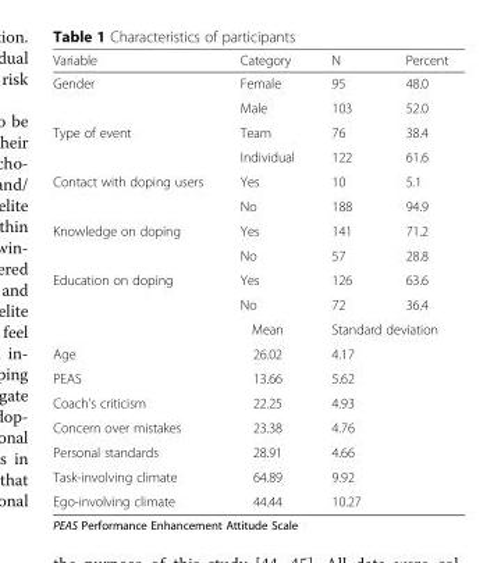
<table><thead><tr><td>Variable</td><td>Category</td><td>N</td><td>Percent</td></tr></thead><tbody><tr><td rowspan="2">Gender</td><td>Female</td><td>95</td><td>48.0</td></tr><tr><td>Male</td><td>103</td><td>52.0</td></tr><tr><td rowspan="2">Type of event</td><td>Team</td><td>76</td><td>38.4</td></tr><tr><td>Individual</td><td>122</td><td>61.6</td></tr><tr><td rowspan="2">Contact with doping users</td><td>Yes</td><td>10</td><td>5.1</td></tr><tr><td>No</td><td>188</td><td>94.9</td></tr><tr><td rowspan="2">Knowledge on doping</td><td>Yes</td><td>141</td><td>71.2</td></tr><tr><td>No</td><td>57</td><td>28.8</td></tr><tr><td rowspan="3">Education on doping</td><td>Yes</td><td>126</td><td>63.6</td></tr><tr><td>No</td><td>72</td><td>36.4</td></tr><tr><td>Mean</td><td colspan="2">Standard deviation</td></tr><tr><td>Age</td><td>26.02</td><td colspan="2">4.17</td></tr><tr><td>PEAS</td><td>13.66</td><td colspan="2">5.62</td></tr><tr><td>Coach’s criticism</td><td>22.25</td><td colspan="2">4.93</td></tr><tr><td>Concern over mistakes</td><td>23.38</td><td colspan="2">4.76</td></tr><tr><td>Personal standards</td><td>28.91</td><td colspan="2">4.66</td></tr><tr><td>Task-involving climate</td><td>64.89</td><td colspan="2">9.92</td></tr><tr><td>Ego-involving climate</td><td>44.44</td><td colspan="2">10.27</td></tr></tbody></table>